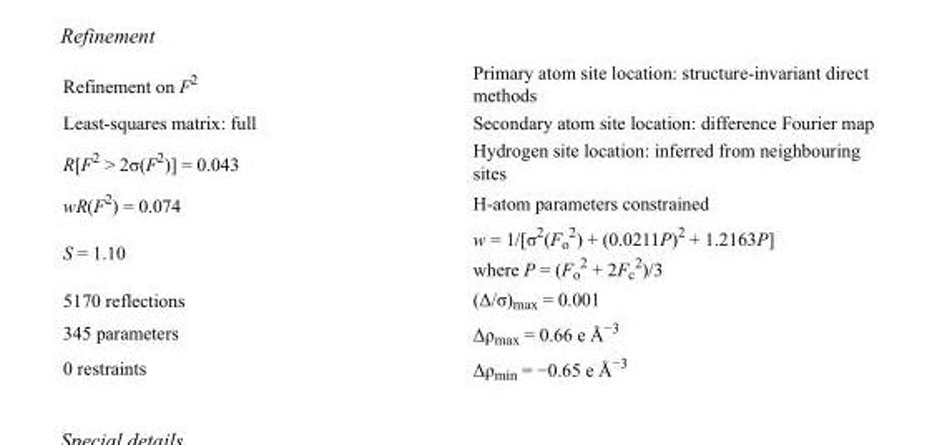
<table><tbody><tr><td>Refinement on F<sup>2</sup></td><td>Primary atom site location: structure-invariant direct methods</td></tr><tr><td>Least-squares matrix: full</td><td>Secondary atom site location: difference Fourier map</td></tr><tr><td>R[F<sup>2</sup> &gt; 2σ(F<sup>2</sup>)] = 0.043</td><td>Hydrogen site location: inferred from neighbouring sites</td></tr><tr><td>wR(F<sup>2</sup>) = 0.074</td><td>H-atom parameters constrained</td></tr><tr><td>S = 1.10</td><td>w = 1/[σ<sup>2</sup>(F<sub>o</sub> <sup>2</sup>) + (0.0211P)<sup>2</sup> + 1.2163P] where P = (F<sub>o</sub> <sup>2</sup> + 2F<sub>c</sub> <sup>2</sup>)/3</td></tr><tr><td>5170 reflections</td><td>(Δ/σ)<sub>max</sub> = 0.001</td></tr><tr><td>345 parameters</td><td>Δρ<sub>max</sub> = 0.66 e Å<sup>−3</sup></td></tr><tr><td>0 restraints</td><td>Δρ<sub>min</sub> = −0.65 e Å<sup>−3</sup></td></tr></tbody></table>